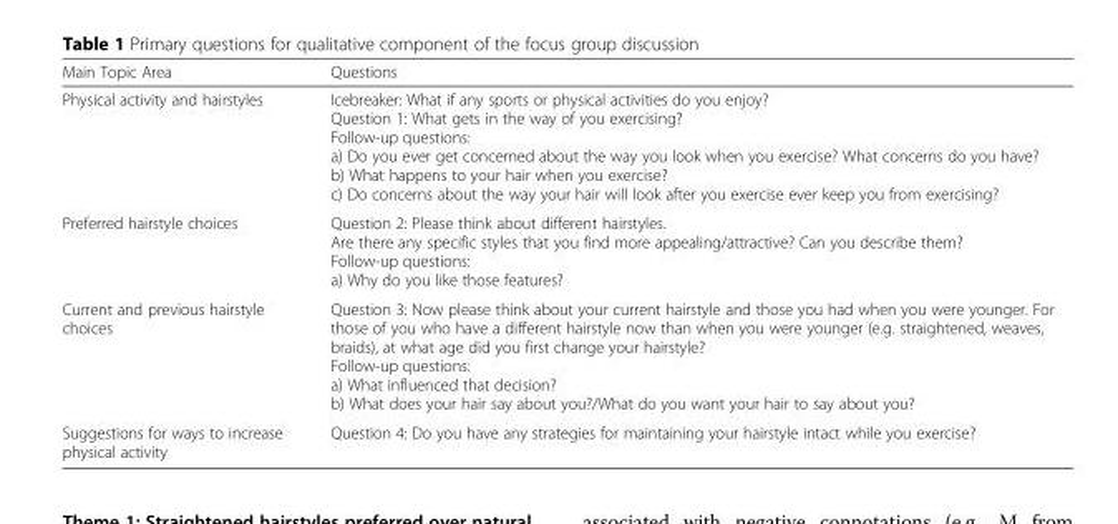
<table><thead><tr><td>Main Topic Area</td><td>Questions</td></tr></thead><tbody><tr><td>Physical activity and hairstyles</td><td>Icebreaker: What if any sports or physical activities do you enjoy? Question 1: What gets in the way of you exercising? Follow-up questions: a) Do you ever get concerned about the way you look when you exercise? What concerns do you have? b) What happens to your hair when you exercise? c) Do concerns about the way your hair will look after you exercise ever keep you from exercising?</td></tr><tr><td>Preferred hairstyle choices</td><td>Question 2: Please think about different hairstyles. Are there any specific styles that you find more appealing/attractive? Can you describe them? Follow-up questions: a) Why do you like those features?</td></tr><tr><td>Current and previous hairstyle choices</td><td>Question 3: Now please think about your current hairstyle and those you had when you were younger. For those of you who have a different hairstyle now than when you were younger (e.g. straightened, weaves, braids), at what age did you first change your hairstyle? Follow-up questions: a) What influenced that decision? b) What does your hair say about you?/What do you want your hair to say about you?</td></tr><tr><td>Suggestions for ways to increase physical activity</td><td>Question 4: Do you have any strategies for maintaining your hairstyle intact while you exercise?</td></tr></tbody></table>